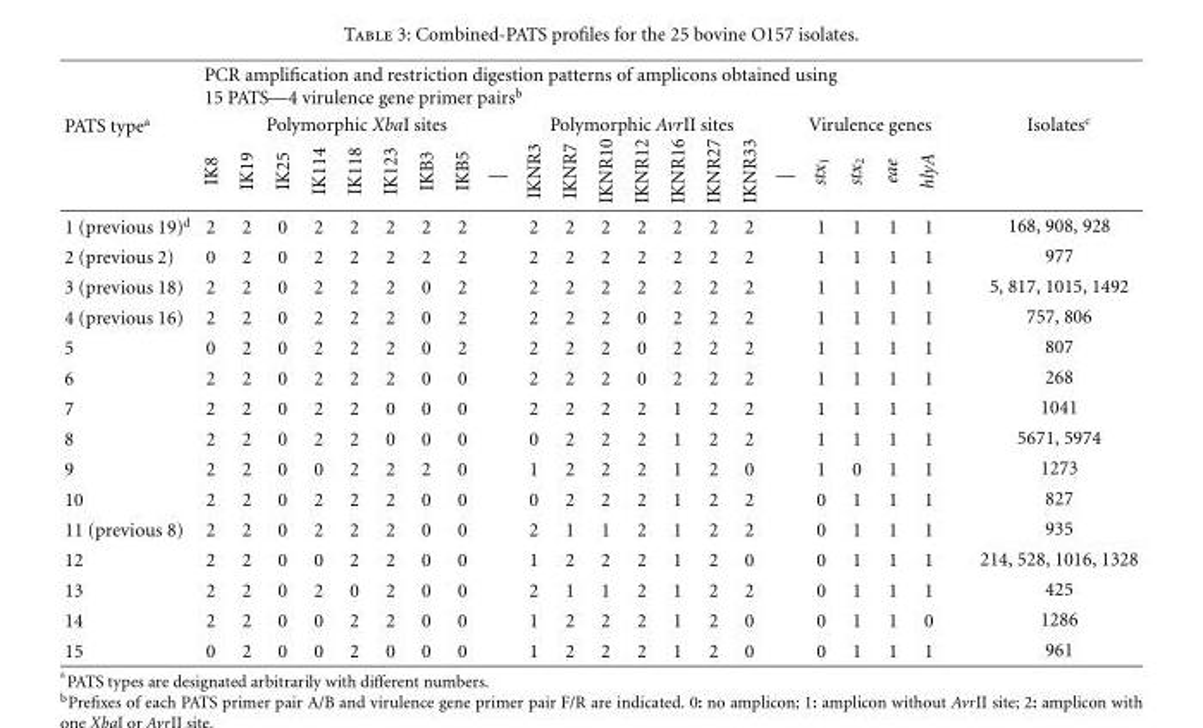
<table><thead><tr><td rowspan="3">PATS type<sup>a</sup></td><td colspan="21">PCR amplification and restriction digestion patterns of amplicons obtained using 15 PATS—4 virulence gene primer pairs<sup>b</sup></td><td rowspan="3">Isolates<sup>c</sup></td></tr><tr><td colspan="9">Polymorphic XbaI sites</td><td colspan="7">Polymorphic AvrII sites</td><td colspan="5">Virulence genes</td></tr><tr><td>IK8</td><td>IK19</td><td>IK25</td><td>IK114</td><td>IK118</td><td>IK123</td><td>IKB3</td><td>IKB5</td><td>—</td><td>IKNR3</td><td>IKNR7</td><td>IKNR10</td><td>IKNR12</td><td>IKNR16</td><td>IKNR27</td><td>IKNR33</td><td>—</td><td>stx<sub>1</sub></td><td>stx<sub>2</sub></td><td>eae</td><td>hlyA</td></tr></thead><tbody><tr><td>1 (previous 19)<sup>d</sup></td><td>2</td><td>2</td><td>0</td><td>2</td><td>2</td><td>2</td><td>2</td><td>2</td><td></td><td>2</td><td>2</td><td>2</td><td>2</td><td>2</td><td>2</td><td>2</td><td></td><td>1</td><td>1</td><td>1</td><td>1</td><td>168, 908, 928</td></tr><tr><td>2 (previous 2)</td><td>0</td><td>2</td><td>0</td><td>2</td><td>2</td><td>2</td><td>2</td><td>2</td><td></td><td>2</td><td>2</td><td>2</td><td>2</td><td>2</td><td>2</td><td>2</td><td></td><td>1</td><td>1</td><td>1</td><td>1</td><td>977</td></tr><tr><td>3 (previous 18)</td><td>2</td><td>2</td><td>0</td><td>2</td><td>2</td><td>2</td><td>0</td><td>2</td><td></td><td>2</td><td>2</td><td>2</td><td>2</td><td>2</td><td>2</td><td>2</td><td></td><td>1</td><td>1</td><td>1</td><td>1</td><td>5, 817, 1015, 1492</td></tr><tr><td>4 (previous 16)</td><td>2</td><td>2</td><td>0</td><td>2</td><td>2</td><td>2</td><td>0</td><td>2</td><td></td><td>2</td><td>2</td><td>2</td><td>0</td><td>2</td><td>2</td><td>2</td><td></td><td>1</td><td>1</td><td>1</td><td>1</td><td>757, 806</td></tr><tr><td>5</td><td>0</td><td>2</td><td>0</td><td>2</td><td>2</td><td>2</td><td>0</td><td>2</td><td></td><td>2</td><td>2</td><td>2</td><td>0</td><td>2</td><td>2</td><td>2</td><td></td><td>1</td><td>1</td><td>1</td><td>1</td><td>807</td></tr><tr><td>6</td><td>2</td><td>2</td><td>0</td><td>2</td><td>2</td><td>2</td><td>0</td><td>0</td><td></td><td>2</td><td>2</td><td>2</td><td>0</td><td>2</td><td>2</td><td>2</td><td></td><td>1</td><td>1</td><td>1</td><td>1</td><td>268</td></tr><tr><td>7</td><td>2</td><td>2</td><td>0</td><td>2</td><td>2</td><td>0</td><td>0</td><td>0</td><td></td><td>2</td><td>2</td><td>2</td><td>2</td><td>1</td><td>2</td><td>2</td><td></td><td>1</td><td>1</td><td>1</td><td>1</td><td>1041</td></tr><tr><td>8</td><td>2</td><td>2</td><td>0</td><td>2</td><td>2</td><td>0</td><td>0</td><td>0</td><td></td><td>0</td><td>2</td><td>2</td><td>2</td><td>1</td><td>2</td><td>2</td><td></td><td>1</td><td>1</td><td>1</td><td>1</td><td>5671, 5974</td></tr><tr><td>9</td><td>2</td><td>2</td><td>0</td><td>0</td><td>2</td><td>2</td><td>2</td><td>0</td><td></td><td>1</td><td>2</td><td>2</td><td>2</td><td>1</td><td>2</td><td>0</td><td></td><td>1</td><td>0</td><td>1</td><td>1</td><td>1273</td></tr><tr><td>10</td><td>2</td><td>2</td><td>0</td><td>2</td><td>2</td><td>2</td><td>0</td><td>0</td><td></td><td>0</td><td>2</td><td>2</td><td>2</td><td>1</td><td>2</td><td>2</td><td></td><td>0</td><td>1</td><td>1</td><td>1</td><td>827</td></tr><tr><td>11 (previous 8)</td><td>2</td><td>2</td><td>0</td><td>2</td><td>2</td><td>2</td><td>0</td><td>0</td><td></td><td>2</td><td>1</td><td>1</td><td>2</td><td>1</td><td>2</td><td>2</td><td></td><td>0</td><td>1</td><td>1</td><td>1</td><td>935</td></tr><tr><td>12</td><td>2</td><td>2</td><td>0</td><td>0</td><td>2</td><td>2</td><td>0</td><td>0</td><td></td><td>1</td><td>2</td><td>2</td><td>2</td><td>1</td><td>2</td><td>0</td><td></td><td>0</td><td>1</td><td>1</td><td>1</td><td>214, 528, 1016, 1328</td></tr><tr><td>13</td><td>2</td><td>2</td><td>0</td><td>2</td><td>0</td><td>2</td><td>0</td><td>0</td><td></td><td>2</td><td>1</td><td>1</td><td>2</td><td>1</td><td>2</td><td>2</td><td></td><td>0</td><td>1</td><td>1</td><td>1</td><td>425</td></tr><tr><td>14</td><td>2</td><td>2</td><td>0</td><td>0</td><td>2</td><td>2</td><td>0</td><td>0</td><td></td><td>1</td><td>2</td><td>2</td><td>2</td><td>1</td><td>2</td><td>0</td><td></td><td>0</td><td>1</td><td>1</td><td>0</td><td>1286</td></tr><tr><td>15</td><td>0</td><td>2</td><td>0</td><td>0</td><td>2</td><td>0</td><td>0</td><td>0</td><td></td><td>1</td><td>2</td><td>2</td><td>2</td><td>1</td><td>2</td><td>0</td><td></td><td>0</td><td>1</td><td>1</td><td>1</td><td>961</td></tr></tbody></table>